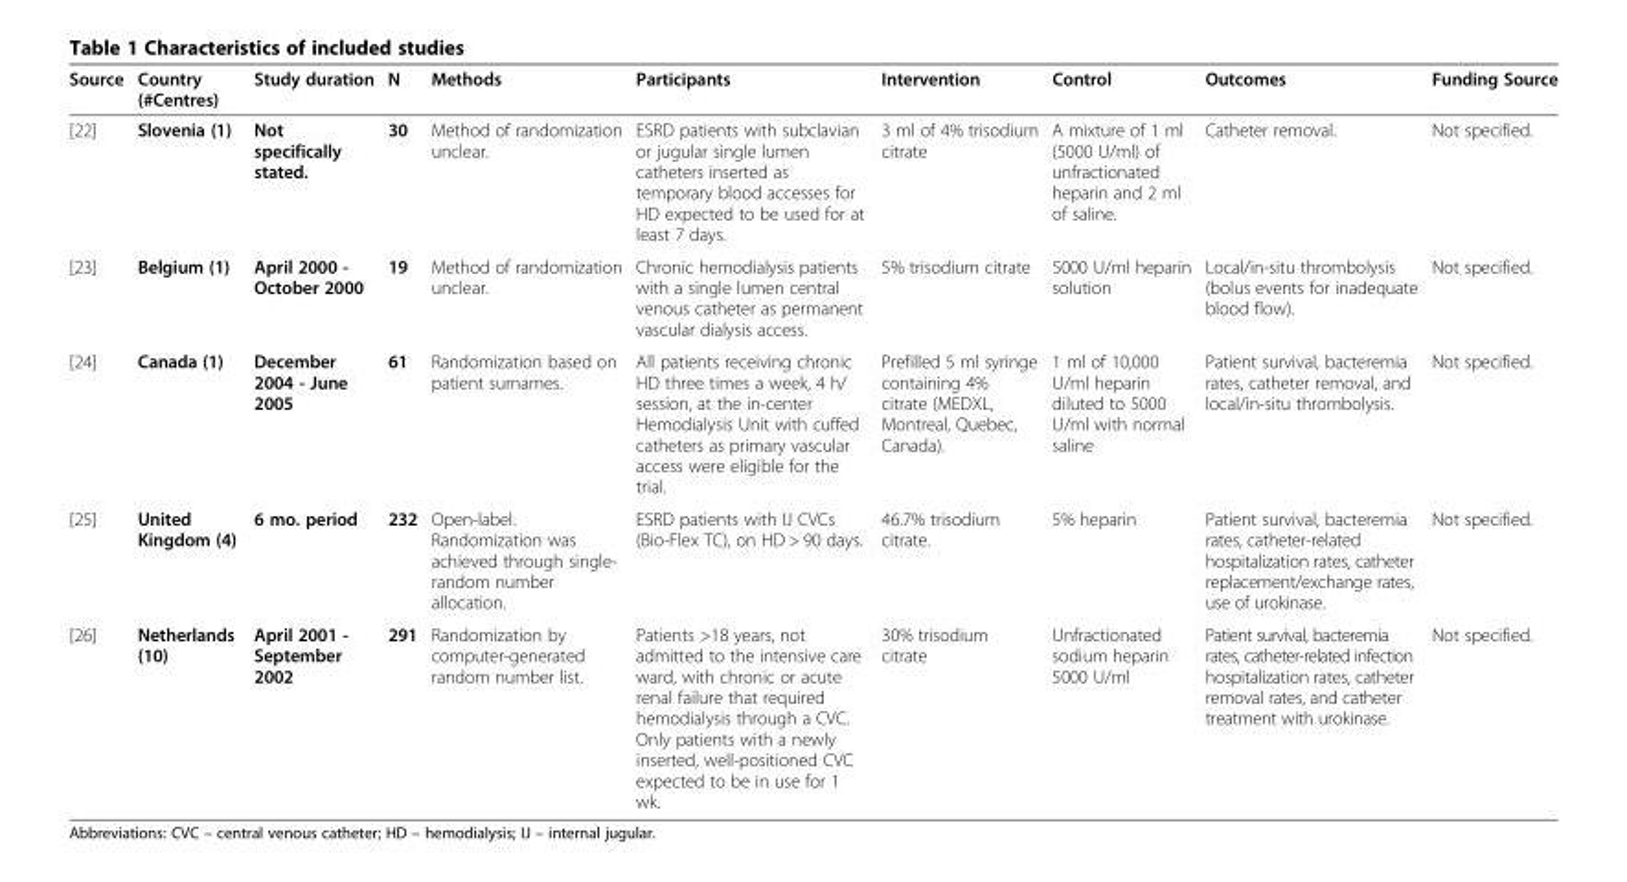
<table><thead><tr><td>Source</td><td>Country (#Centres)</td><td>Study duration</td><td>N</td><td>Methods</td><td>Participants</td><td>Intervention</td><td>Control</td><td>Outcomes</td><td>Funding Source</td></tr></thead><tbody><tr><td>[22]</td><td>Slovenia (1)</td><td>Not specifically stated.</td><td>30</td><td>Method of randomization unclear.</td><td>ESRD patients with subclavian or jugular single lumen catheters inserted as temporary blood accesses for HD expected to be used for at least 7 days.</td><td>3 ml of 4% trisodium citrate</td><td>A mixture of 1 ml (5000 U/ml) of unfractionated heparin and 2 ml of saline.</td><td>Catheter removal.</td><td>Not specified.</td></tr><tr><td>[23]</td><td>Belgium (1)</td><td>April 2000 - October 2000</td><td>19</td><td>Method of randomization unclear.</td><td>Chronic hemodialysis patients with a single lumen central venous catheter as permanent vascular dialysis access.</td><td>5% trisodium citrate</td><td>5000 U/ml heparin solution</td><td>Local/in-situ thrombolysis (bolus events for inadequate blood flow).</td><td>Not specified.</td></tr><tr><td>[24]</td><td>Canada (1)</td><td>December 2004 - June 2005</td><td>61</td><td>Randomization based on patient surnames.</td><td>All patients receiving chronic HD three times a week, 4 h/ session, at the in-center Hemodialysis Unit with cuffed catheters as primary vascular access were eligible for the trial.</td><td>Prefilled 5 ml syringe containing 4% citrate (MEDXL, Montreal, Quebec, Canada).</td><td>1 ml of 10,000 U/ml heparin diluted to 5000 U/ml with normal saline</td><td>Patient survival, bacteremia rates, catheter removal, and local/in-situ thrombolysis.</td><td>Not specified.</td></tr><tr><td>[25]</td><td>United Kingdom (4)</td><td>6 mo. period</td><td>232</td><td>Open-label. Randomization was achieved through single- random number allocation.</td><td>ESRD patients with IJ CVCs (Bio-Flex TC), on HD &gt; 90 days.</td><td>46.7% trisodium citrate.</td><td>5% heparin</td><td>Patient survival, bacteremia rates, catheter-related hospitalization rates, catheter replacement/exchange rates, use of urokinase.</td><td>Not specified.</td></tr><tr><td>[26]</td><td>Netherlands (10)</td><td>April 2001 - September 2002</td><td>291</td><td>Randomization by computer-generated random number list.</td><td>Patients &gt;18 years, not admitted to the intensive care ward, with chronic or acute renal failure that required hemodialysis through a CVC. Only patients with a newly inserted, well-positioned CVC expected to be in use for 1 wk.</td><td>30% trisodium citrate</td><td>Unfractionated sodium heparin 5000 U/ml</td><td>Patient survival, bacteremia rates, catheter-related infection hospitalization rates, catheter removal rates, and catheter treatment with urokinase.</td><td>Not specified.</td></tr></tbody></table>